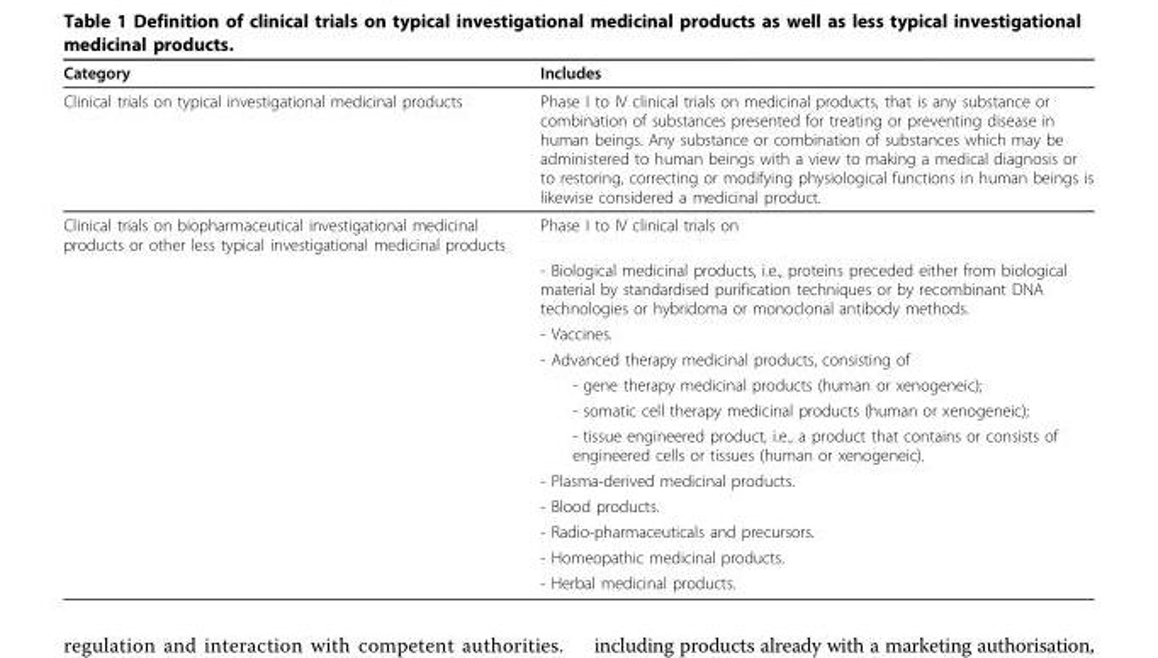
<table><thead><tr><td>Category</td><td>Includes</td></tr></thead><tbody><tr><td>Clinical trials on typical investigational medicinal products</td><td>Phase I to IV clinical trials on medicinal products, that is any substance or combination of substances presented for treating or preventing disease in human beings. Any substance or combination of substances which may be administered to human beings with a view to making a medical diagnosis or to restoring, correcting or modifying physiological functions in human beings is likewise considered a medicinal product.</td></tr><tr><td rowspan="12">Clinical trials on biopharmaceutical investigational medicinal products or other less typical investigational medicinal products</td><td>Phase I to IV clinical trials on</td></tr><tr><td>- Biological medicinal products, i.e., proteins preceded either from biological material by standardised purification techniques or by recombinant DNA technologies or hybridoma or monoclonal antibody methods.</td></tr><tr><td>- Vaccines.</td></tr><tr><td>- Advanced therapy medicinal products, consisting of</td></tr><tr><td>- gene therapy medicinal products (human or xenogeneic);</td></tr><tr><td>- somatic cell therapy medicinal products (human or xenogeneic);</td></tr><tr><td>- tissue engineered product, i.e., a product that contains or consists of engineered cells or tissues (human or xenogeneic).</td></tr><tr><td>- Plasma-derived medicinal products.</td></tr><tr><td>- Blood products.</td></tr><tr><td>- Radio-pharmaceuticals and precursors.</td></tr><tr><td>- Homeopathic medicinal products.</td></tr><tr><td>- Herbal medicinal products.</td></tr></tbody></table>